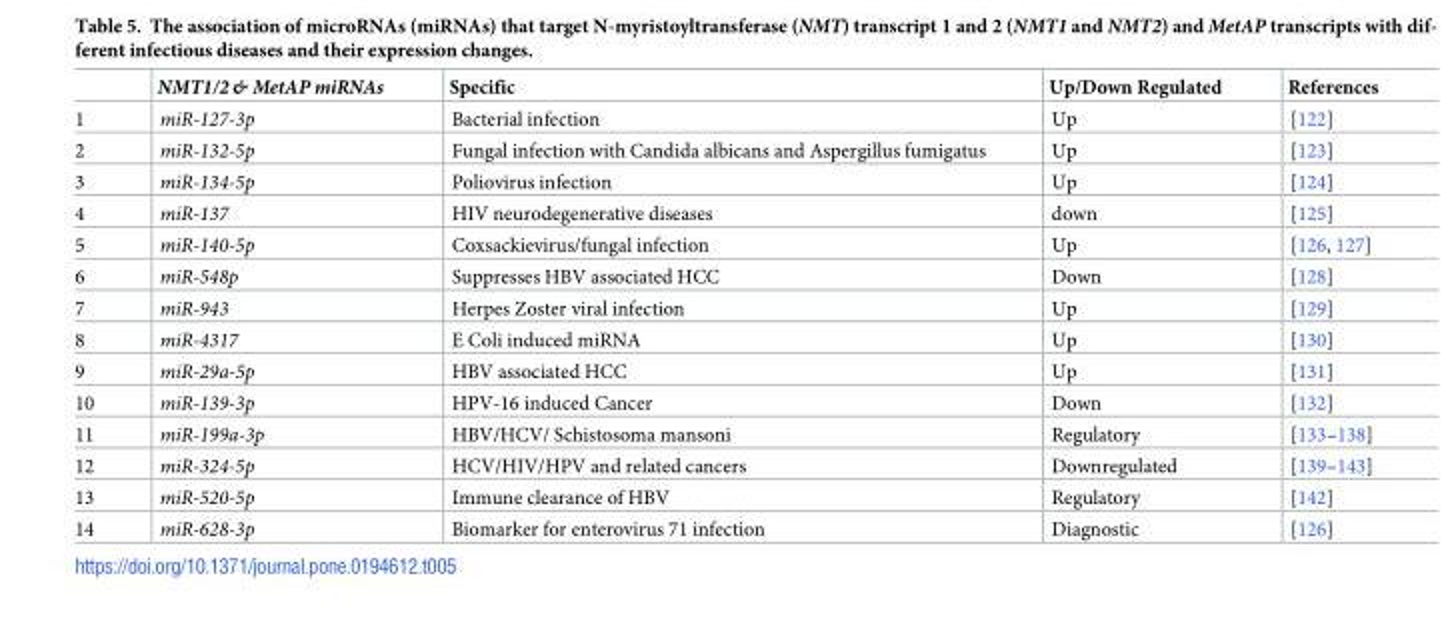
<table><thead><tr><td></td><td>NMT1/2 &amp; MetAP miRNAs</td><td>Specific</td><td>Up/Down Regulated</td><td>References</td></tr></thead><tbody><tr><td>1</td><td>miR-127-3p</td><td>Bacterial infection</td><td>Up</td><td>[122]</td></tr><tr><td>2</td><td>miR-132-5p</td><td>Fungal infection with Candida albicans and Aspergillus fumigatus</td><td>Up</td><td>[123]</td></tr><tr><td>3</td><td>miR-134-5p</td><td>Poliovirus infection</td><td>Up</td><td>[124]</td></tr><tr><td>4</td><td>miR-137</td><td>HIV neurodegenerative diseases</td><td>down</td><td>[125]</td></tr><tr><td>5</td><td>miR-140-5p</td><td>Coxsackievirus/fungal infection</td><td>Up</td><td>[126, 127]</td></tr><tr><td>6</td><td>miR-548p</td><td>Suppresses HBV associated HCC</td><td>Down</td><td>[128]</td></tr><tr><td>7</td><td>miR-943</td><td>Herpes Zoster viral infection</td><td>Up</td><td>[129]</td></tr><tr><td>8</td><td>miR-4317</td><td>E Coli induced miRNA</td><td>Up</td><td>[130]</td></tr><tr><td>9</td><td>miR-29a-5p</td><td>HBV associated HCC</td><td>Up</td><td>[131]</td></tr><tr><td>10</td><td>miR-139-3p</td><td>HPV-16 induced Cancer</td><td>Down</td><td>[132]</td></tr><tr><td>11</td><td>miR-199a-3p</td><td>HBV/HCV/ Schistosoma mansoni</td><td>Regulatory</td><td>[133–138]</td></tr><tr><td>12</td><td>miR-324-5p</td><td>HCV/HIV/HPV and related cancers</td><td>Downregulated</td><td>[139–143]</td></tr><tr><td>13</td><td>miR-520-5p</td><td>Immune clearance of HBV</td><td>Regulatory</td><td>[142]</td></tr><tr><td>14</td><td>miR-628-3p</td><td>Biomarker for enterovirus 71 infection</td><td>Diagnostic</td><td>[126]</td></tr></tbody></table>